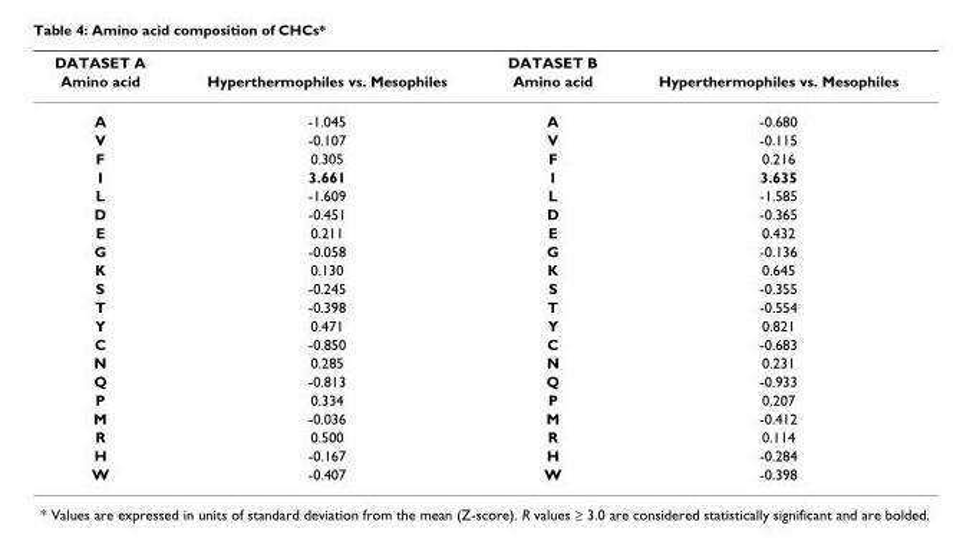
<table><thead><tr><td rowspan="2">DATASET A Amino acid</td><td rowspan="2">Hyperthermophiles vs. Mesophiles</td><td rowspan="2">DATASET B Amino acid</td><td rowspan="2">Hyperthermophiles vs. Mesophiles</td></tr><tr></tr></thead><tbody><tr><td>A</td><td>-1.045</td><td>A</td><td>-0.680</td></tr><tr><td>V</td><td>-0.107</td><td>V</td><td>-0.115</td></tr><tr><td>F</td><td>0.305</td><td>F</td><td>0.216</td></tr><tr><td>I</td><td>3.661</td><td>I</td><td>3.635</td></tr><tr><td>L</td><td>-1.609</td><td>L</td><td>-1.585</td></tr><tr><td>D</td><td>-0.451</td><td>D</td><td>-0.365</td></tr><tr><td>E</td><td>0.211</td><td>E</td><td>0.432</td></tr><tr><td>G</td><td>-0.058</td><td>G</td><td>-0.136</td></tr><tr><td>K</td><td>0.130</td><td>K</td><td>0.645</td></tr><tr><td>S</td><td>-0.245</td><td>S</td><td>-0.355</td></tr><tr><td>T</td><td>-0.398</td><td>T</td><td>-0.554</td></tr><tr><td>Y</td><td>0.471</td><td>Y</td><td>0.821</td></tr><tr><td>C</td><td>-0.850</td><td>C</td><td>-0.683</td></tr><tr><td>N</td><td>0.285</td><td>N</td><td>0.231</td></tr><tr><td>Q</td><td>-0.813</td><td>Q</td><td>-0.933</td></tr><tr><td>P</td><td>0.334</td><td>P</td><td>0.207</td></tr><tr><td>M</td><td>-0.036</td><td>M</td><td>-0.412</td></tr><tr><td>R</td><td>0.500</td><td>R</td><td>0.114</td></tr><tr><td>H</td><td>-0.167</td><td>H</td><td>-0.284</td></tr><tr><td>W</td><td>-0.407</td><td>W</td><td>-0.398</td></tr></tbody></table>